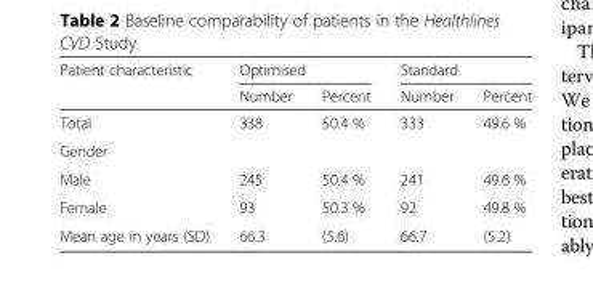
<table><thead><tr><td rowspan="2">Patient characteristic</td><td colspan="2">Optimised</td><td colspan="2">Standard</td></tr><tr><td>Number</td><td>Percent</td><td>Number</td><td>Percent</td></tr></thead><tbody><tr><td>Total</td><td>338</td><td>50.4 %</td><td>333</td><td>49.6 %</td></tr><tr><td colspan="5">Gender</td></tr><tr><td>Male</td><td>245</td><td>50.4 %</td><td>241</td><td>49.6 %</td></tr><tr><td>Female</td><td>93</td><td>50.3 %</td><td>92</td><td>49.8 %</td></tr><tr><td>Mean age in years (SD)</td><td>66.3</td><td>(5.6)</td><td>66.7</td><td>(5.2)</td></tr></tbody></table>